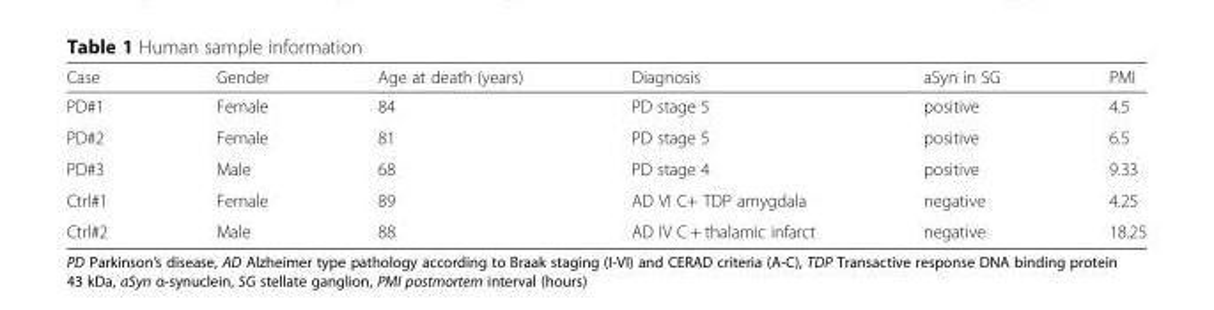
<table><thead><tr><td>Case</td><td>Gender</td><td>Age at death (years)</td><td>Diagnosis</td><td>aSyn in SG</td><td>PMI</td></tr></thead><tbody><tr><td>PD#1</td><td>Female</td><td>84</td><td>PD stage 5</td><td>positive</td><td>4.5</td></tr><tr><td>PD#2</td><td>Female</td><td>81</td><td>PD stage 5</td><td>positive</td><td>6.5</td></tr><tr><td>PD#3</td><td>Male</td><td>68</td><td>PD stage 4</td><td>positive</td><td>9.33</td></tr><tr><td>Ctrl#1</td><td>Female</td><td>89</td><td>AD VI C+ TDP amygdala</td><td>negative</td><td>4.25</td></tr><tr><td>Ctrl#2</td><td>Male</td><td>88</td><td>AD IV C + thalamic infarct</td><td>negative</td><td>18.25</td></tr></tbody></table>